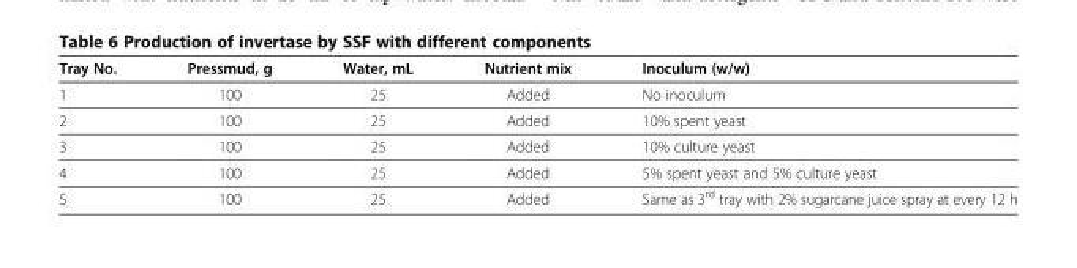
<table><thead><tr><td>Tray No.</td><td>Pressmud, g</td><td>Water, mL</td><td>Nutrient mix</td><td>Inoculum (w/w)</td></tr></thead><tbody><tr><td>1</td><td>100</td><td>25</td><td>Added</td><td>No inoculum</td></tr><tr><td>2</td><td>100</td><td>25</td><td>Added</td><td>10% spent yeast</td></tr><tr><td>3</td><td>100</td><td>25</td><td>Added</td><td>10% culture yeast</td></tr><tr><td>4</td><td>100</td><td>25</td><td>Added</td><td>5% spent yeast and 5% culture yeast</td></tr><tr><td>5</td><td>100</td><td>25</td><td>Added</td><td>Same as 3<sup>rd</sup> tray with 2% sugarcane juice spray at every 12 h</td></tr></tbody></table>